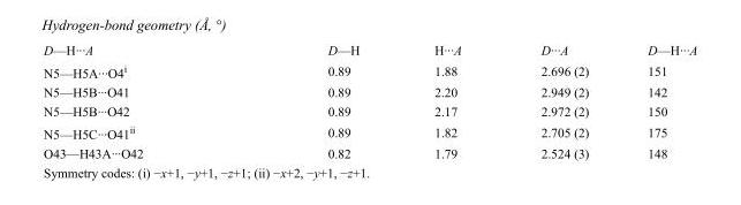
<table><tbody><tr><td>D—H···A</td><td>D—H</td><td>H···A</td><td>D···A</td><td>D—H···A</td></tr><tr><td>N5—H5A···O4<sup>i</sup></td><td>0.89</td><td>1.88</td><td>2.696 (2)</td><td>151</td></tr><tr><td>N5—H5B···O41</td><td>0.89</td><td>2.20</td><td>2.949 (2)</td><td>142</td></tr><tr><td>N5—H5B···O42</td><td>0.89</td><td>2.17</td><td>2.972 (2)</td><td>150</td></tr><tr><td>N5—H5C···O41<sup>ii</sup></td><td>0.89</td><td>1.82</td><td>2.705 (2)</td><td>175</td></tr><tr><td>O43—H43A···O42</td><td>0.82</td><td>1.79</td><td>2.524 (3)</td><td>148</td></tr></tbody></table>